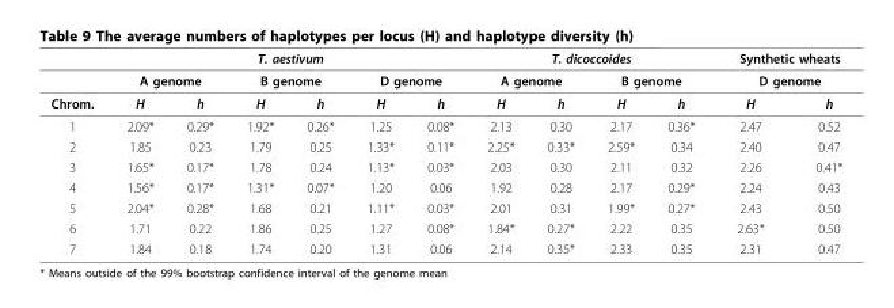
<table><thead><tr><td rowspan="3">Chrom.</td><td colspan="6">T. aestivum</td><td colspan="4">T. dicoccoides</td><td rowspan="2" colspan="2">Synthetic wheats D genome</td></tr><tr><td colspan="2">A genome</td><td colspan="2">B genome</td><td colspan="2">D genome</td><td colspan="2">A genome</td><td colspan="2">B genome</td></tr><tr><td>H</td><td>h</td><td>H</td><td>h</td><td>H</td><td>h</td><td>H</td><td>h</td><td>H</td><td>h</td><td>H</td><td>h</td></tr></thead><tbody><tr><td>1</td><td>2.09*</td><td>0.29*</td><td>1.92*</td><td>0.26*</td><td>1.25</td><td>0.08*</td><td>2.13</td><td>0.30</td><td>2.17</td><td>0.36*</td><td>2.47</td><td>0.52</td></tr><tr><td>2</td><td>1.85</td><td>0.23</td><td>1.79</td><td>0.25</td><td>1.33*</td><td>0.11*</td><td>2.25*</td><td>0.33*</td><td>2.59*</td><td>0.34</td><td>2.40</td><td>0.47</td></tr><tr><td>3</td><td>1.65*</td><td>0.17*</td><td>1.78</td><td>0.24</td><td>1.13*</td><td>0.03*</td><td>2.03</td><td>0.30</td><td>2.11</td><td>0.32</td><td>2.26</td><td>0.41*</td></tr><tr><td>4</td><td>1.56*</td><td>0.17*</td><td>1.31*</td><td>0.07*</td><td>1.20</td><td>0.06</td><td>1.92</td><td>0.28</td><td>2.17</td><td>0.29*</td><td>2.24</td><td>0.43</td></tr><tr><td>5</td><td>2.04*</td><td>0.28*</td><td>1.68</td><td>0.21</td><td>1.11*</td><td>0.03*</td><td>2.01</td><td>0.31</td><td>1.99*</td><td>0.27*</td><td>2.43</td><td>0.50</td></tr><tr><td>6</td><td>1.71</td><td>0.22</td><td>1.86</td><td>0.25</td><td>1.27</td><td>0.08*</td><td>1.84*</td><td>0.27*</td><td>2.22</td><td>0.35</td><td>2.63*</td><td>0.50</td></tr><tr><td>7</td><td>1.84</td><td>0.18</td><td>1.74</td><td>0.20</td><td>1.31</td><td>0.06</td><td>2.14</td><td>0.35*</td><td>2.33</td><td>0.35</td><td>2.31</td><td>0.47</td></tr></tbody></table>